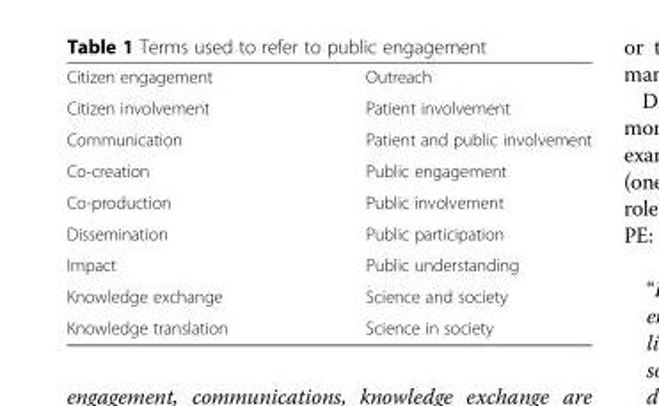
<table><tbody><tr><td>Citizen engagement</td><td>Outreach</td></tr><tr><td>Citizen involvement</td><td>Patient involvement</td></tr><tr><td>Communication</td><td>Patient and public involvement</td></tr><tr><td>Co-creation</td><td>Public engagement</td></tr><tr><td>Co-production</td><td>Public involvement</td></tr><tr><td>Dissemination</td><td>Public participation</td></tr><tr><td>Impact</td><td>Public understanding</td></tr><tr><td>Knowledge exchange</td><td>Science and society</td></tr><tr><td>Knowledge translation</td><td>Science in society</td></tr></tbody></table>